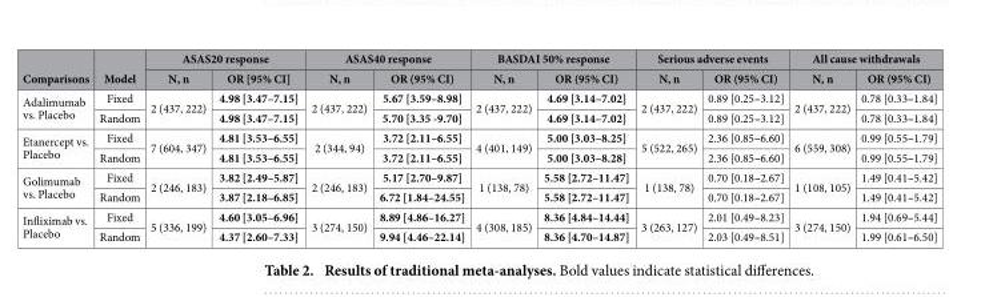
<table><thead><tr><td rowspan="2">Comparisons</td><td rowspan="2">Model</td><td colspan="2">ASAS20 response</td><td colspan="2">ASAS40 response</td><td colspan="2">BASDAI 50% response</td><td colspan="2">Serious adverse events</td><td colspan="2">All cause withdrawals</td></tr><tr><td>N, n</td><td>OR [95% CI]</td><td>N, n</td><td>OR (95% CI)</td><td>N, n</td><td>OR (95% CI)</td><td>N, n</td><td>OR (95% CI)</td><td>N, n</td><td>OR (95% CI)</td></tr></thead><tbody><tr><td rowspan="2">Adalimumab vs. Placebo</td><td>Fixed</td><td rowspan="2">2 (437, 222)</td><td>4.98 [3.47–7.15]</td><td rowspan="2">2 (437, 222)</td><td>5.67 [3.59–8.98]</td><td rowspan="2">2 (437, 222)</td><td>4.69 [3.14–7.02]</td><td rowspan="2">2 (437, 222)</td><td>0.89 [0.25–3.12]</td><td rowspan="2">2 (437, 222)</td><td>0.78 [0.33–1.84]</td></tr><tr><td>Random</td><td>4.98 [3.47–7.15]</td><td>5.70 [3.35 -9.70]</td><td>4.69 [3.14–7.02]</td><td>0.89 [0.25–3.12]</td><td>0.78 [0.33–1.84]</td></tr><tr><td rowspan="2">Etanercept vs. Placebo</td><td>Fixed</td><td rowspan="2">7 (604, 347)</td><td>4.81 [3.53–6.55]</td><td rowspan="2">2 (344, 94)</td><td>3.72 [2.11–6.55]</td><td rowspan="2">4 (401, 149)</td><td>5.00 [3.03–8.25]</td><td rowspan="2">5 (522, 265)</td><td>2.36 [0.85–6.60]</td><td rowspan="2">6 (559, 308)</td><td>0.99 [0.55–1.79]</td></tr><tr><td>Random</td><td>4.81 [3.53–6.55]</td><td>3.72 [2.11–6.55]</td><td>5.00 [3.03–8.28]</td><td>2.36 [0.85–6.60]</td><td>0.99 [0.55–1.79]</td></tr><tr><td rowspan="2">Golimumab vs. Placebo</td><td>Fixed</td><td rowspan="2">2 (246, 183)</td><td>3.82 [2.49–5.87]</td><td rowspan="2">2 (246, 183)</td><td>5.17 [2.70–9.87]</td><td rowspan="2">1 (138, 78)</td><td>5.58 [2.72–11.47]</td><td rowspan="2">1 (138, 78)</td><td>0.70 [0.18–2.67]</td><td rowspan="2">1 (108, 105)</td><td>1.49 [0.41–5.42]</td></tr><tr><td>Random</td><td>3.87 [2.18–6.85]</td><td>6.72 [1.84–24.55]</td><td>5.58 [2.72–11.47]</td><td>0.70 [0.18–2.67]</td><td>1.49 [0.41–5.42]</td></tr><tr><td rowspan="2">Infliximab vs. Placebo</td><td>Fixed</td><td rowspan="2">5 (336, 199)</td><td>4.60 [3.05–6.96]</td><td rowspan="2">3 (274, 150)</td><td>8.89 [4.86–16.27]</td><td rowspan="2">4 (308, 185)</td><td>8.36 [4.84–14.44]</td><td rowspan="2">3 (263, 127)</td><td>2.01 [0.49–8.23]</td><td rowspan="2">3 (274, 150)</td><td>1.94 [0.69–5.44]</td></tr><tr><td>Random</td><td>4.37 [2.60–7.33]</td><td>9.94 [4.46–22.14]</td><td>8.36 [4.70–14.87]</td><td>2.03 [0.49–8.51]</td><td>1.99 [0.61–6.50]</td></tr></tbody></table>